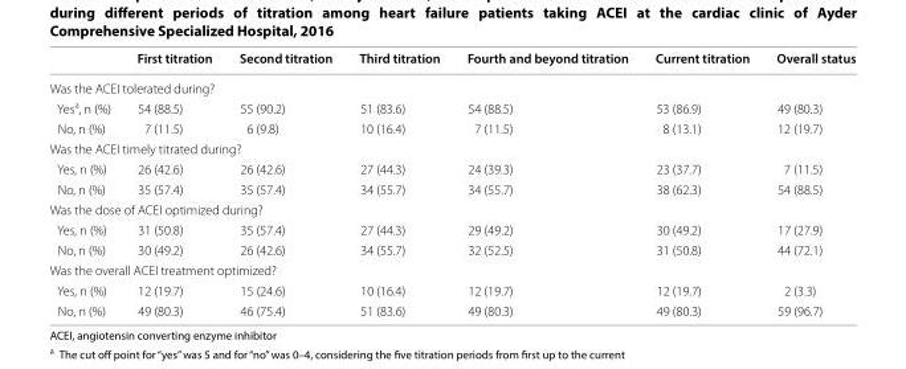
<table><thead><tr><td></td><td>First titration</td><td>Second titration</td><td>Third titration</td><td>Fourth and beyond titration</td><td>Current titration</td><td>Overall status</td></tr></thead><tbody><tr><td colspan="7">Was the ACEI tolerated during?</td></tr><tr><td>Yes<sup>a</sup>, n (%)</td><td>54 (88.5)</td><td>55 (90.2)</td><td>51 (83.6)</td><td>54 (88.5)</td><td>53 (86.9)</td><td>49 (80.3)</td></tr><tr><td>No, n (%)</td><td>7 (11.5)</td><td>6 (9.8)</td><td>10 (16.4)</td><td>7 (11.5)</td><td>8 (13.1)</td><td>12 (19.7)</td></tr><tr><td colspan="7">Was the ACEI timely titrated during?</td></tr><tr><td>Yes, n (%)</td><td>26 (42.6)</td><td>26 (42.6)</td><td>27 (44.3)</td><td>24 (39.3)</td><td>23 (37.7)</td><td>7 (11.5)</td></tr><tr><td>No, n (%)</td><td>35 (57.4)</td><td>35 (57.4)</td><td>34 (55.7)</td><td>34 (55.7)</td><td>38 (62.3)</td><td>54 (88.5)</td></tr><tr><td colspan="7">Was the dose of ACEI optimized during?</td></tr><tr><td>Yes, n (%)</td><td>31 (50.8)</td><td>35 (57.4)</td><td>27 (44.3)</td><td>29 (49.2)</td><td>30 (49.2)</td><td>17 (27.9)</td></tr><tr><td>No, n (%)</td><td>30 (49.2)</td><td>26 (42.6)</td><td>34 (55.7)</td><td>32 (52.5)</td><td>31 (50.8)</td><td>44 (72.1)</td></tr><tr><td colspan="7">Was the overall ACEI treatment optimized?</td></tr><tr><td>Yes, n (%)</td><td>12 (19.7)</td><td>15 (24.6)</td><td>10 (16.4)</td><td>12 (19.7)</td><td>12 (19.7)</td><td>2 (3.3)</td></tr><tr><td>No, n (%)</td><td>49 (80.3)</td><td>46 (75.4)</td><td>51 (83.6)</td><td>49 (80.3)</td><td>49 (80.3)</td><td>59 (96.7)</td></tr></tbody></table>